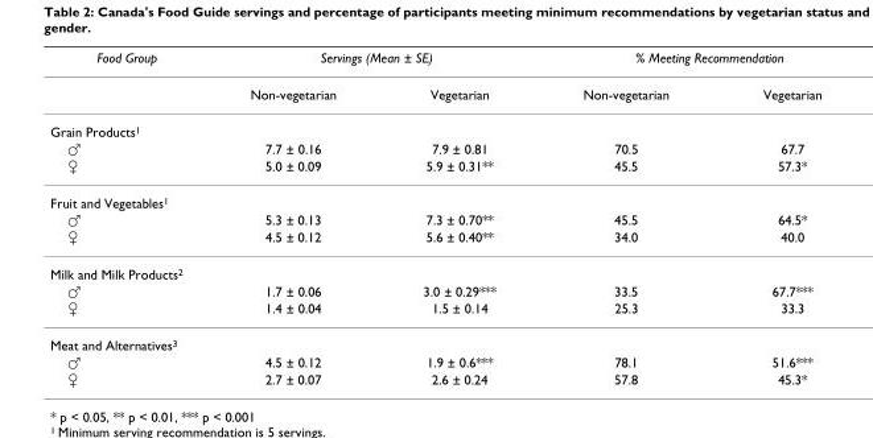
<table><thead><tr><td rowspan="2">Food Group</td><td colspan="2">Servings (Mean ± SE)</td><td colspan="2">% Meeting Recommendation</td></tr><tr><td>Non-vegetarian</td><td>Vegetarian</td><td>Non-vegetarian</td><td>Vegetarian</td></tr></thead><tbody><tr><td colspan="5">Grain Products<sup>1</sup></td></tr><tr><td>♂</td><td>7.7 ± 0.16</td><td>7.9 ± 0.81</td><td>70.5</td><td>67.7</td></tr><tr><td>♀</td><td>5.0 ± 0.09</td><td>5.9 ± 0.31**</td><td>45.5</td><td>57.3*</td></tr><tr><td colspan="5">Fruit and Vegetables<sup>1</sup></td></tr><tr><td>♂</td><td>5.3 ± 0.13</td><td>7.3 ± 0.70**</td><td>45.5</td><td>64.5*</td></tr><tr><td>♀</td><td>4.5 ± 0.12</td><td>5.6 ± 0.40**</td><td>34.0</td><td>40.0</td></tr><tr><td colspan="5">Milk and Milk Products<sup>2</sup></td></tr><tr><td>♂</td><td>1.7 ± 0.06</td><td>3.0 ± 0.29***</td><td>33.5</td><td>67.7***</td></tr><tr><td>♀</td><td>1.4 ± 0.04</td><td>1.5 ± 0.14</td><td>25.3</td><td>33.3</td></tr><tr><td colspan="5">Meat and Alternatives<sup>3</sup></td></tr><tr><td>♂</td><td>4.5 ± 0.12</td><td>1.9 ± 0.6***</td><td>78.1</td><td>51.6***</td></tr><tr><td>♀</td><td>2.7 ± 0.07</td><td>2.6 ± 0.24</td><td>57.8</td><td>45.3*</td></tr></tbody></table>